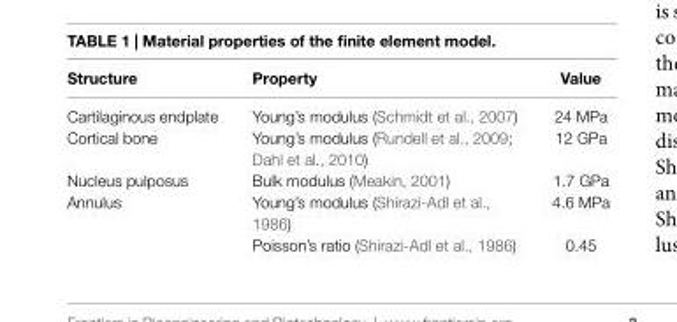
<table><thead><tr><td>structure</td><td>Property</td><td>Value</td></tr></thead><tbody><tr><td>Cartilaginous endplate</td><td>Young’s modulus (Schmidt et al., 2007)</td><td>24 MPa</td></tr><tr><td>Cortical bone</td><td>Young’s modulus (Rundell et al., 2009; Dahl et al., 2010)</td><td>12 GPa</td></tr><tr><td>Nucleus pulposus</td><td>Bulk modulus (Meakin, 2001)</td><td>1.7 GPa</td></tr><tr><td rowspan="2">Annulus</td><td>Young’s modulus (Shirazi-Adl et al., 1986)</td><td>4.6 MPa</td></tr><tr><td>Poisson’s ratio (Shirazi-Adl et al., 1986)</td><td>0.45</td></tr></tbody></table>